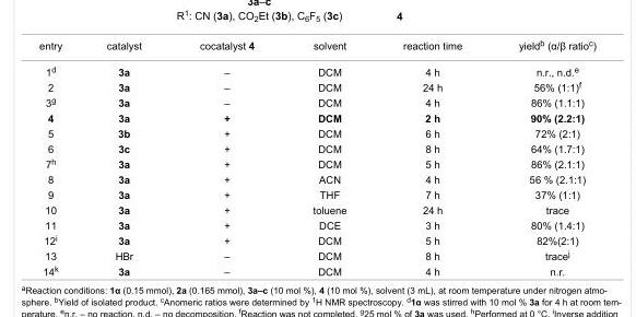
<table><tbody><tr><td>entry</td><td>catalyst</td><td>cocatalyst 4</td><td>solvent</td><td>reaction time</td><td>yield<sup>b</sup> (α/β ratio<sup>c</sup>)</td></tr><tr><td>1<sup>d</sup></td><td>3a</td><td>–</td><td>DCM</td><td>4 h</td><td>n.r., n.d.<sup>e</sup></td></tr><tr><td>2</td><td>3a</td><td>–</td><td>DCM</td><td>24 h</td><td>56% (1:1)<sup>f</sup></td></tr><tr><td>3<sup>g</sup></td><td>3a</td><td>–</td><td>DCM</td><td>4 h</td><td>86% (1.1:1)</td></tr><tr><td>4</td><td>3a</td><td>+</td><td>DCM</td><td>2 h</td><td>90% (2.2:1)</td></tr><tr><td>5</td><td>3b</td><td>+</td><td>DCM</td><td>6 h</td><td>72% (2:1)</td></tr><tr><td>6</td><td>3c</td><td>+</td><td>DCM</td><td>8 h</td><td>64% (1.7:1)</td></tr><tr><td>7<sup>h</sup></td><td>3a</td><td>+</td><td>DCM</td><td>5 h</td><td>86% (2.1:1)</td></tr><tr><td>8</td><td>3a</td><td>+</td><td>ACN</td><td>4 h</td><td>56 % (2.1:1)</td></tr><tr><td>9</td><td>3a</td><td>+</td><td>THF</td><td>7 h</td><td>37% (1:1)</td></tr><tr><td>10</td><td>3a</td><td>+</td><td>toluene</td><td>24 h</td><td>trace</td></tr><tr><td>11</td><td>3a</td><td>+</td><td>DCE</td><td>3 h</td><td>80% (1.4:1)</td></tr><tr><td>12<sup>i</sup></td><td>3a</td><td>+</td><td>DCM</td><td>5 h</td><td>82%(2:1)</td></tr><tr><td>13</td><td>HBr</td><td>–</td><td>DCM</td><td>8 h</td><td>trace<sup>j</sup></td></tr><tr><td>14<sup>k</sup></td><td>3a</td><td>–</td><td>DCM</td><td>4 h</td><td>n.r.</td></tr></tbody></table>